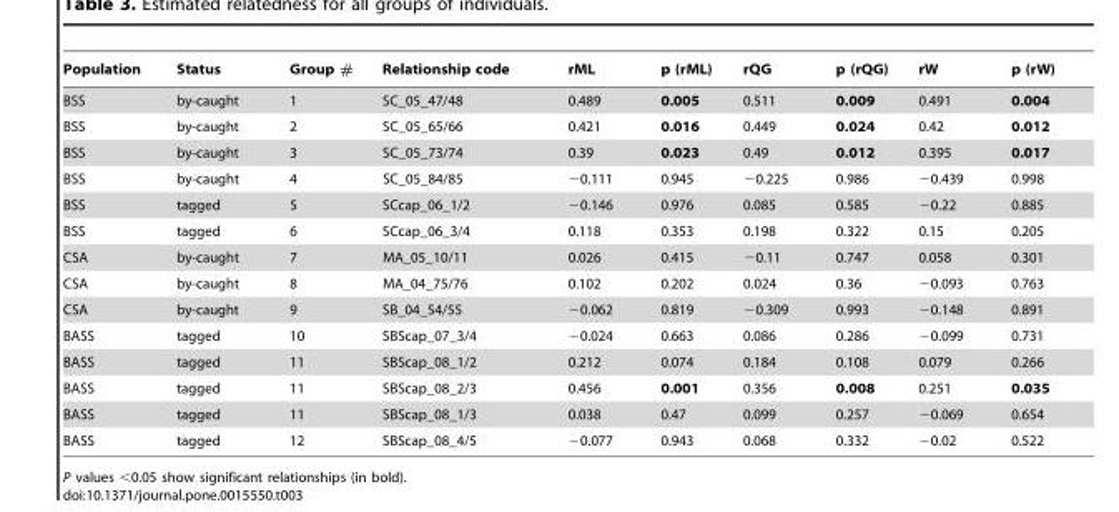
<table><thead><tr><td>Population</td><td>Status</td><td>Group #</td><td>Relationship code</td><td>rML</td><td>p (rML)</td><td>rQG</td><td>p (rQG)</td><td>rW</td><td>p (rW)</td></tr></thead><tbody><tr><td>BSS</td><td>by-caught</td><td>1</td><td>SC_05_47/48</td><td>0.489</td><td>0.005</td><td>0.511</td><td>0.009</td><td>0.491</td><td>0.004</td></tr><tr><td>BSS</td><td>by-caught</td><td>2</td><td>SC_05_65/66</td><td>0.421</td><td>0.016</td><td>0.449</td><td>0.024</td><td>0.42</td><td>0.012</td></tr><tr><td>BSS</td><td>by-caught</td><td>3</td><td>SC_05_73/74</td><td>0.39</td><td>0.023</td><td>0.49</td><td>0.012</td><td>0.395</td><td>0.017</td></tr><tr><td>BSS</td><td>by-caught</td><td>4</td><td>SC_05_84/85</td><td>−0.111</td><td>0.945</td><td>−0.225</td><td>0.986</td><td>−0.439</td><td>0.998</td></tr><tr><td>BSS</td><td>tagged</td><td>5</td><td>SCcap_06_1/2</td><td>−0.146</td><td>0.976</td><td>0.085</td><td>0.585</td><td>−0.22</td><td>0.885</td></tr><tr><td>BSS</td><td>tagged</td><td>6</td><td>SCcap_06_3/4</td><td>0.118</td><td>0.353</td><td>0.198</td><td>0.322</td><td>0.15</td><td>0.205</td></tr><tr><td>CSA</td><td>by-caught</td><td>7</td><td>MA_05_10/11</td><td>0.026</td><td>0.415</td><td>−0.11</td><td>0.747</td><td>0.058</td><td>0.301</td></tr><tr><td>CSA</td><td>by-caught</td><td>8</td><td>MA_04_75/76</td><td>0.102</td><td>0.202</td><td>0.024</td><td>0.36</td><td>−0.093</td><td>0.763</td></tr><tr><td>CSA</td><td>by-caught</td><td>9</td><td>SB_04_54/55</td><td>−0.062</td><td>0.819</td><td>−0.309</td><td>0.993</td><td>−0.148</td><td>0.891</td></tr><tr><td>BASS</td><td>tagged</td><td>10</td><td>SBScap_07_3/4</td><td>−0.024</td><td>0.663</td><td>0.086</td><td>0.286</td><td>−0.099</td><td>0.731</td></tr><tr><td>BASS</td><td>tagged</td><td>11</td><td>SBScap_08_1/2</td><td>0.212</td><td>0.074</td><td>0.184</td><td>0.108</td><td>0.079</td><td>0.266</td></tr><tr><td>BASS</td><td>tagged</td><td>11</td><td>SBScap_08_2/3</td><td>0.456</td><td>0.001</td><td>0.356</td><td>0.008</td><td>0.251</td><td>0.035</td></tr><tr><td>BASS</td><td>tagged</td><td>11</td><td>SBScap_08_1/3</td><td>0.038</td><td>0.47</td><td>0.099</td><td>0.257</td><td>−0.069</td><td>0.654</td></tr><tr><td>BASS</td><td>tagged</td><td>12</td><td>SBScap_08_4/5</td><td>−0.077</td><td>0.943</td><td>0.068</td><td>0.332</td><td>−0.02</td><td>0.522</td></tr></tbody></table>